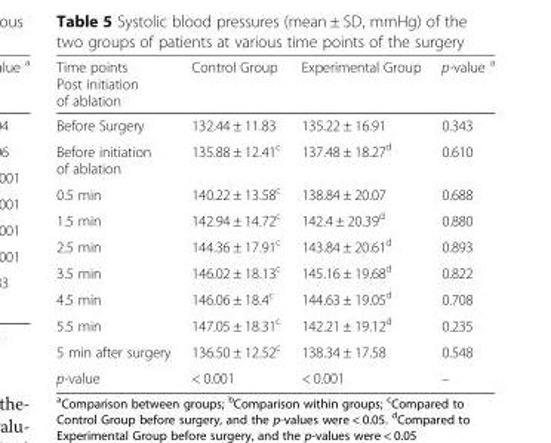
<table><thead><tr><td>Time points Post initiation of ablation</td><td>Control Group</td><td>Experimental Group</td><td>p-value <sup>a</sup></td></tr></thead><tbody><tr><td>Before Surgery</td><td>132.44 ± 11.83</td><td>135.22 ± 16.91</td><td>0.343</td></tr><tr><td>Before initiation of ablation</td><td>135.88 ± 12.41<sup>c</sup></td><td>137.48 ± 18.27<sup>d</sup></td><td>0.610</td></tr><tr><td>0.5 min</td><td>140.22 ± 13.58<sup>c</sup></td><td>138.84 ± 20.07</td><td>0.688</td></tr><tr><td>1.5 min</td><td>142.94 ± 14.72<sup>c</sup></td><td>142.4 ± 20.39<sup>d</sup></td><td>0.880</td></tr><tr><td>2.5 min</td><td>144.36 ± 17.91<sup>c</sup></td><td>143.84 ± 20.61<sup>d</sup></td><td>0.893</td></tr><tr><td>3.5 min</td><td>146.02 ± 18.13<sup>c</sup></td><td>145.16 ± 19.68<sup>d</sup></td><td>0.822</td></tr><tr><td>4.5 min</td><td>146.06 ± 18.4<sup>c</sup></td><td>144.63 ± 19.05<sup>d</sup></td><td>0.708</td></tr><tr><td>5.5 min</td><td>147.05 ± 18.31<sup>c</sup></td><td>142.21 ± 19.12<sup>d</sup></td><td>0.235</td></tr><tr><td>5 min after surgery</td><td>136.50 ± 12.52<sup>c</sup></td><td>138.34 ± 17.58</td><td>0.548</td></tr><tr><td>p-value</td><td>&lt; 0.001</td><td>&lt; 0.001</td><td>–</td></tr></tbody></table>